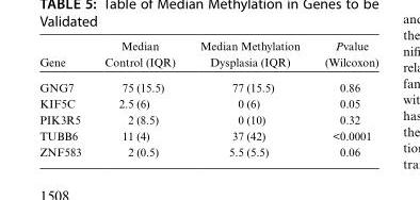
<table><thead><tr><td>Gene</td><td>Median Control (IQR)</td><td>Median Methylation Dysplasia (IQR)</td><td>Pvalue (Wilcoxon)</td></tr></thead><tbody><tr><td>GNG7</td><td>75 (15.5)</td><td>77 (15.5)</td><td>0.86</td></tr><tr><td>KIF5C</td><td>2.5 (6)</td><td>0 (6)</td><td>0.05</td></tr><tr><td>PIK3R5</td><td>2 (8.5)</td><td>0 (10)</td><td>0.32</td></tr><tr><td>TUBB6</td><td>11 (4)</td><td>37 (42)</td><td>&lt;0.0001</td></tr><tr><td>ZNF583</td><td>2 (0.5)</td><td>5.5 (5.5)</td><td>0.06</td></tr></tbody></table>